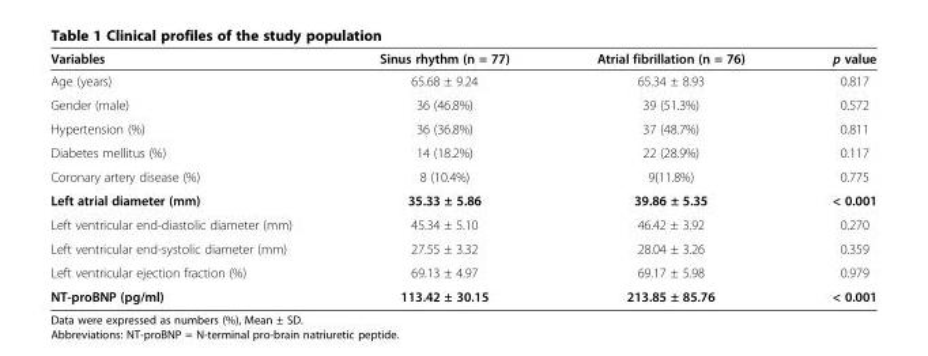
<table><thead><tr><td>Variables</td><td>Sinus rhythm (n = 77)</td><td>Atrial fibrillation (n = 76)</td><td>p value</td></tr></thead><tbody><tr><td>Age (years)</td><td>65.68 ± 9.24</td><td>65.34 ± 8.93</td><td>0.817</td></tr><tr><td>Gender (male)</td><td>36 (46.8%)</td><td>39 (51.3%)</td><td>0.572</td></tr><tr><td>Hypertension (%)</td><td>36 (36.8%)</td><td>37 (48.7%)</td><td>0.811</td></tr><tr><td>Diabetes mellitus (%)</td><td>14 (18.2%)</td><td>22 (28.9%)</td><td>0.117</td></tr><tr><td>Coronary artery disease (%)</td><td>8 (10.4%)</td><td>9(11.8%)</td><td>0.775</td></tr><tr><td>Left atrial diameter (mm)</td><td>35.33 ± 5.86</td><td>39.86 ± 5.35</td><td>&lt; 0.001</td></tr><tr><td>Left ventricular end-diastolic diameter (mm)</td><td>45.34 ± 5.10</td><td>46.42 ± 3.92</td><td>0.270</td></tr><tr><td>Left ventricular end-systolic diameter (mm)</td><td>27.55 ± 3.32</td><td>28.04 ± 3.26</td><td>0.359</td></tr><tr><td>Left ventricular ejection fraction (%)</td><td>69.13 ± 4.97</td><td>69.17 ± 5.98</td><td>0.979</td></tr><tr><td>NT-proBNP (pg/ml)</td><td>113.42 ± 30.15</td><td>213.85 ± 85.76</td><td>&lt; 0.001</td></tr></tbody></table>